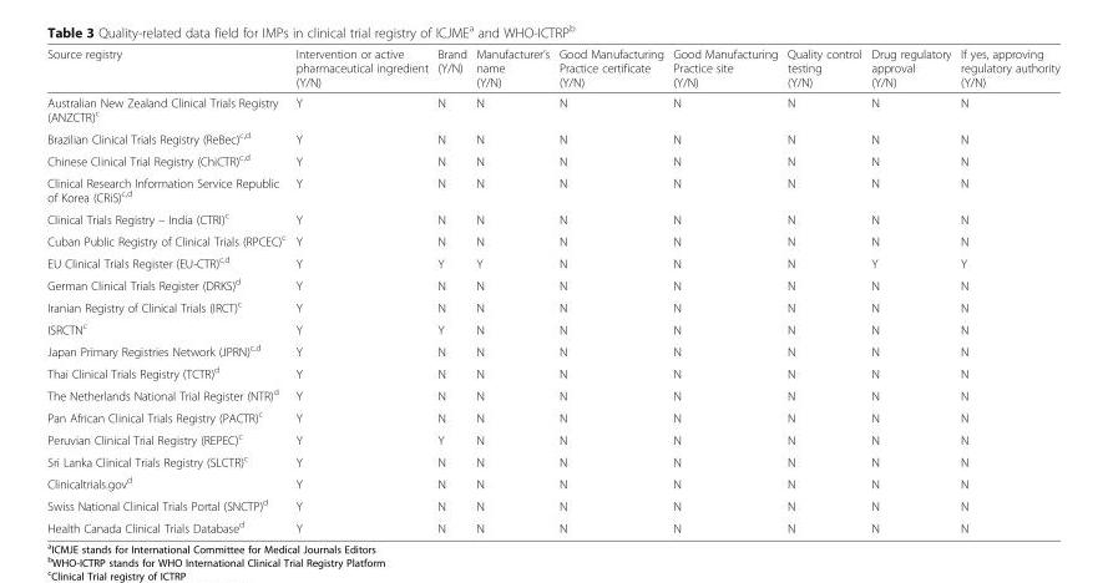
<table><thead><tr><td>Source registry</td><td>Intervention or active pharmaceutical ingredient (Y/N)</td><td>Brand (Y/N)</td><td>Manufacturer’s name (Y/N)</td><td>Good Manufacturing Practice certificate (Y/N)</td><td>Good Manufacturing Practice site (Y/N)</td><td>Quality control testing (Y/N)</td><td>Drug regulatory approval (Y/N)</td><td>If yes, approving regulatory authority (Y/N)</td></tr></thead><tbody><tr><td>Australian New Zealand Clinical Trials Registry (ANZCTR)<sup>c</sup></td><td>Y</td><td>N</td><td>N</td><td>N</td><td>N</td><td>N</td><td>N</td><td>N</td></tr><tr><td>Brazilian Clinical Trials Registry (ReBec)<sup>c,d</sup></td><td>Y</td><td>N</td><td>N</td><td>N</td><td>N</td><td>N</td><td>N</td><td>N</td></tr><tr><td>Chinese Clinical Trial Registry (ChiCTR)<sup>c,d</sup></td><td>Y</td><td>N</td><td>N</td><td>N</td><td>N</td><td>N</td><td>N</td><td>N</td></tr><tr><td>Clinical Research Information Service Republic of Korea (CRiS)<sup>c,d</sup></td><td>Y</td><td>N</td><td>N</td><td>N</td><td>N</td><td>N</td><td>N</td><td>N</td></tr><tr><td>Clinical Trials Registry – India (CTRI)<sup>c</sup></td><td>Y</td><td>N</td><td>N</td><td>N</td><td>N</td><td>N</td><td>N</td><td>N</td></tr><tr><td>Cuban Public Registry of Clinical Trials (RPCEC)<sup>c</sup></td><td>Y</td><td>N</td><td>N</td><td>N</td><td>N</td><td>N</td><td>N</td><td>N</td></tr><tr><td>EU Clinical Trials Register (EU-CTR)<sup>c,d</sup></td><td>Y</td><td>Y</td><td>Y</td><td>N</td><td>N</td><td>N</td><td>Y</td><td>Y</td></tr><tr><td>German Clinical Trials Register (DRKS)<sup>d</sup></td><td>Y</td><td>N</td><td>N</td><td>N</td><td>N</td><td>N</td><td>N</td><td>N</td></tr><tr><td>Iranian Registry of Clinical Trials (IRCT)<sup>c</sup></td><td>Y</td><td>N</td><td>N</td><td>N</td><td>N</td><td>N</td><td>N</td><td>N</td></tr><tr><td>ISRCTN<sup>c</sup></td><td>Y</td><td>Y</td><td>N</td><td>N</td><td>N</td><td>N</td><td>N</td><td>N</td></tr><tr><td>Japan Primary Registries Network (JPRN)<sup>c,d</sup></td><td>Y</td><td>N</td><td>N</td><td>N</td><td>N</td><td>N</td><td>N</td><td>N</td></tr><tr><td>Thai Clinical Trials Registry (TCTR)<sup>d</sup></td><td>Y</td><td>N</td><td>N</td><td>N</td><td>N</td><td>N</td><td>N</td><td>N</td></tr><tr><td>The Netherlands National Trial Register (NTR)<sup>d</sup></td><td>Y</td><td>N</td><td>N</td><td>N</td><td>N</td><td>N</td><td>N</td><td>N</td></tr><tr><td>Pan African Clinical Trials Registry (PACTR)<sup>c</sup></td><td>Y</td><td>N</td><td>N</td><td>N</td><td>N</td><td>N</td><td>N</td><td>N</td></tr><tr><td>Peruvian Clinical Trial Registry (REPEC)<sup>c</sup></td><td>Y</td><td>Y</td><td>N</td><td>N</td><td>N</td><td>N</td><td>N</td><td>N</td></tr><tr><td>Sri Lanka Clinical Trials Registry (SLCTR)<sup>c</sup></td><td>Y</td><td>N</td><td>N</td><td>N</td><td>N</td><td>N</td><td>N</td><td>N</td></tr><tr><td>Clinicaltrials.gov<sup>d</sup></td><td>Y</td><td>N</td><td>N</td><td>N</td><td>N</td><td>N</td><td>N</td><td>N</td></tr><tr><td>Swiss National Clinical Trials Portal (SNCTP)<sup>d</sup></td><td>Y</td><td>N</td><td>N</td><td>N</td><td>N</td><td>N</td><td>N</td><td>N</td></tr><tr><td>Health Canada Clinical Trials Database<sup>d</sup></td><td>Y</td><td>N</td><td>N</td><td>N</td><td>N</td><td>N</td><td>N</td><td>N</td></tr></tbody></table>